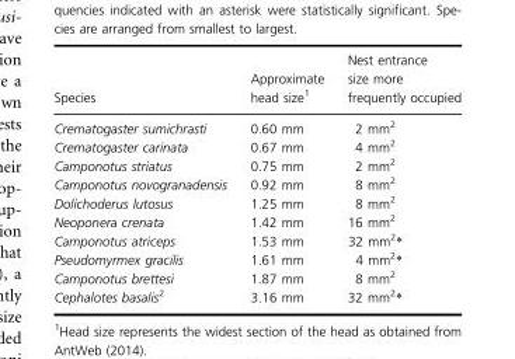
<table><thead><tr><td>Species</td><td>Approximate head size<sup>1</sup></td><td>Nest entrance size more frequently occupied</td></tr></thead><tbody><tr><td>Crematogaster sumichrasti</td><td>0.60 mm</td><td>2 mm<sup>2</sup></td></tr><tr><td>Crematogaster carinata</td><td>0.67 mm</td><td>4 mm<sup>2</sup></td></tr><tr><td>Camponotus striatus</td><td>0.75 mm</td><td>2 mm<sup>2</sup></td></tr><tr><td>Camponotus novogranadensis</td><td>0.92 mm</td><td>8 mm<sup>2</sup></td></tr><tr><td>Dolichoderus lutosus</td><td>1.25 mm</td><td>8 mm<sup>2</sup></td></tr><tr><td>Neoponera crenata</td><td>1.42 mm</td><td>16 mm<sup>2</sup></td></tr><tr><td>Camponotus atriceps</td><td>1.53 mm</td><td>32 mm<sup>2</sup>*</td></tr><tr><td>Pseudomyrmex gracilis</td><td>1.61 mm</td><td>4 mm<sup>2</sup>*</td></tr><tr><td>Camponotus brettesi</td><td>1.87 mm</td><td>8 mm<sup>2</sup></td></tr><tr><td>Cephalotes basalis<sup>2</sup></td><td>3.16 mm</td><td>32 mm<sup>2</sup>*</td></tr></tbody></table>